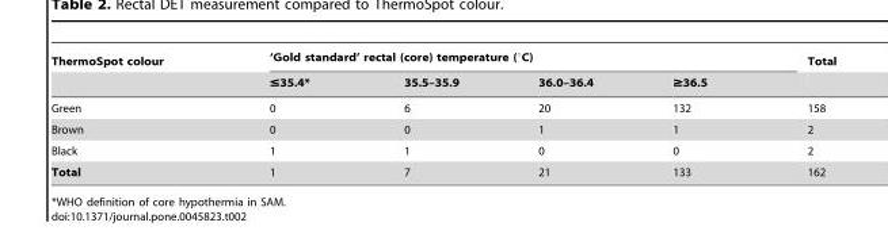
<table><thead><tr><td rowspan="2">ThermoSpot colour</td><td colspan="4">‘Gold standard’ rectal (core) temperature (°C)</td><td rowspan="2">Total</td></tr><tr><td>≤35.4*</td><td>35.5–35.9</td><td>36.0–36.4</td><td>≥36.5</td></tr></thead><tbody><tr><td>Green</td><td>0</td><td>6</td><td>20</td><td>132</td><td>158</td></tr><tr><td>Brown</td><td>0</td><td>0</td><td>1</td><td>1</td><td>2</td></tr><tr><td>Black</td><td>1</td><td>1</td><td>0</td><td>0</td><td>2</td></tr><tr><td>Total</td><td>1</td><td>7</td><td>21</td><td>133</td><td>162</td></tr></tbody></table>